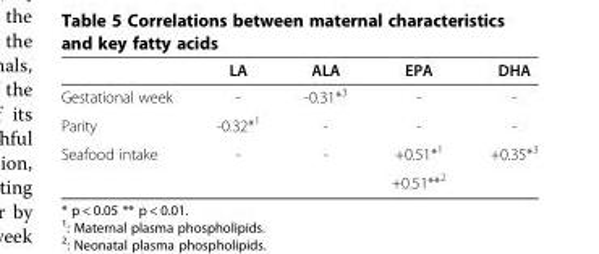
<table><thead><tr><td></td><td>LA</td><td>ALA</td><td>EPA</td><td>DHA</td></tr></thead><tbody><tr><td>Gestational week</td><td>-</td><td>-0.31*<sup>3</sup></td><td>-</td><td>-</td></tr><tr><td>Parity</td><td>-0.32*<sup>1</sup></td><td>-</td><td>-</td><td>-</td></tr><tr><td rowspan="2">Seafood intake</td><td rowspan="2">-</td><td rowspan="2">-</td><td>+0.51*<sup>1</sup></td><td rowspan="2">+0.35*<sup>3</sup></td></tr><tr><td>+0.51**<sup>2</sup></td></tr></tbody></table>